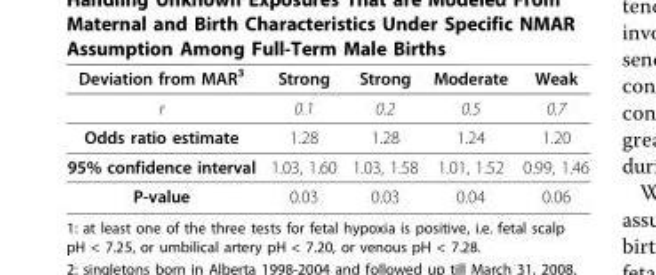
<table><thead><tr><td>Deviation from MAR<sup>3</sup></td><td>Strong</td><td>Strong</td><td>Moderate</td><td>Weak</td></tr></thead><tbody><tr><td>r</td><td>0.1</td><td>0.2</td><td>0.5</td><td>0.7</td></tr><tr><td>Odds ratio estimate</td><td>1.28</td><td>1.28</td><td>1.24</td><td>1.20</td></tr><tr><td>95% confidence interval</td><td>1.03, 1.60</td><td>1.03, 1.58</td><td>1.01, 1.52</td><td>0.99, 1.46</td></tr><tr><td>P-value</td><td>0.03</td><td>0.03</td><td>0.04</td><td>0.06</td></tr></tbody></table>